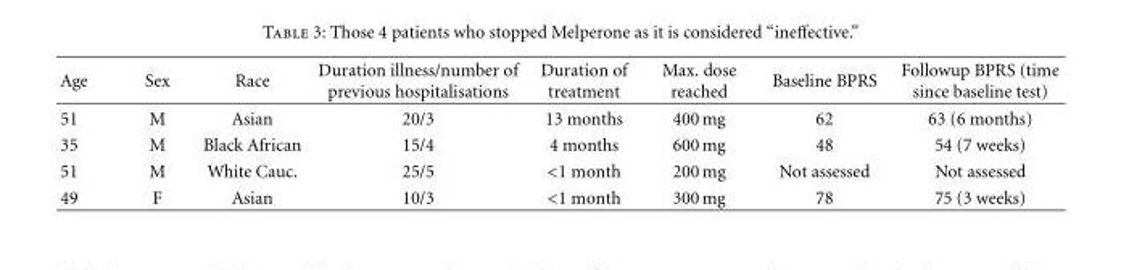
<table><thead><tr><td>Age</td><td>Sex</td><td>Race</td><td>Duration illness/number of previous hospitalisations</td><td>Duration of treatment</td><td>Max. dose reached</td><td>Baseline BPRS</td><td>Followup BPRS (time since baseline test)</td></tr></thead><tbody><tr><td>51</td><td>M</td><td>Asian</td><td>20/3</td><td>13 months</td><td>400 mg</td><td>62</td><td>63 (6 months)</td></tr><tr><td>35</td><td>M</td><td>Black African</td><td>15/4</td><td>4 months</td><td>600 mg</td><td>48</td><td>54 (7 weeks)</td></tr><tr><td>51</td><td>M</td><td>White Cauc.</td><td>25/5</td><td>&lt;1 month</td><td>200 mg</td><td>Not assessed</td><td>Not assessed</td></tr><tr><td>49</td><td>F</td><td>Asian</td><td>10/3</td><td>&lt;1 month</td><td>300 mg</td><td>78</td><td>75 (3 weeks)</td></tr></tbody></table>